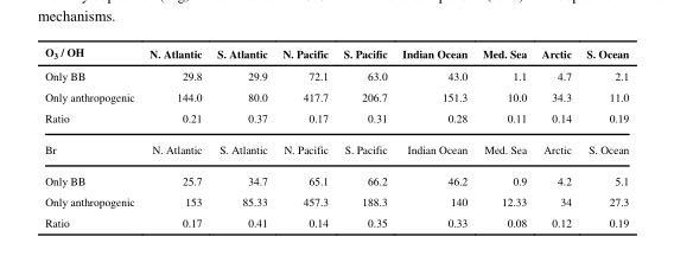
<table><thead><tr><td>O<sub>3</sub> / OH</td><td>N. Atlantic</td><td>S. Atlantic</td><td>N. Pacific</td><td>S. Pacific</td><td>Indian Ocean</td><td>Med. Sea</td><td>Arctic</td><td>S. Ocean</td></tr></thead><tbody><tr><td>Only BB</td><td>29.8</td><td>29.9</td><td>72.1</td><td>63.0</td><td>43.0</td><td>1.1</td><td>4.7</td><td>2.1</td></tr><tr><td>Only anthropogenic</td><td>144.0</td><td>80.0</td><td>417.7</td><td>206.7</td><td>151.3</td><td>10.0</td><td>34.3</td><td>11.0</td></tr><tr><td>Ratio</td><td>0.21</td><td>0.37</td><td>0.17</td><td>0.31</td><td>0.28</td><td>0.11</td><td>0.14</td><td>0.19</td></tr><tr><td>Br</td><td>N. Atlantic</td><td>S. Atlantic</td><td>N. Pacific</td><td>S. Pacific</td><td>Indian Ocean</td><td>Med. Sea</td><td>Arctic</td><td>S. Ocean</td></tr><tr><td>Only BB</td><td>25.7</td><td>34.7</td><td>65.1</td><td>66.2</td><td>46.2</td><td>0.9</td><td>4.2</td><td>5.1</td></tr><tr><td>Only anthropogenic</td><td>153</td><td>85.33</td><td>457.3</td><td>188.3</td><td>140</td><td>12.33</td><td>34</td><td>27.3</td></tr><tr><td>Ratio</td><td>0.17</td><td>0.41</td><td>0.14</td><td>0.35</td><td>0.33</td><td>0.08</td><td>0.12</td><td>0.19</td></tr></tbody></table>